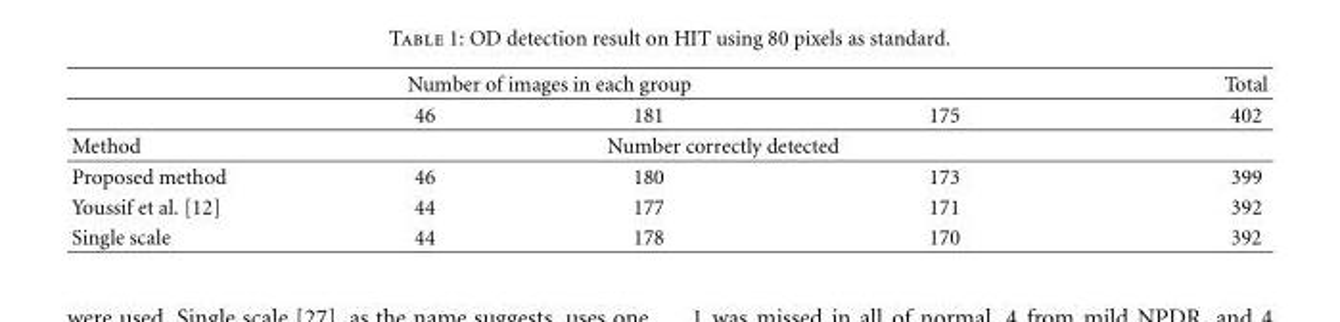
<table><thead><tr><td colspan="4">Number of images in each group</td><td rowspan="2">Total 402</td></tr><tr><td></td><td>46</td><td>181</td><td>175</td></tr></thead><tbody><tr><td>Method</td><td colspan="3">Number correctly detected</td><td></td></tr><tr><td>Proposed method</td><td>46</td><td>180</td><td>173</td><td>399</td></tr><tr><td>Youssif et al. [12]</td><td>44</td><td>177</td><td>171</td><td>392</td></tr><tr><td>Single scale</td><td>44</td><td>178</td><td>170</td><td>392</td></tr></tbody></table>